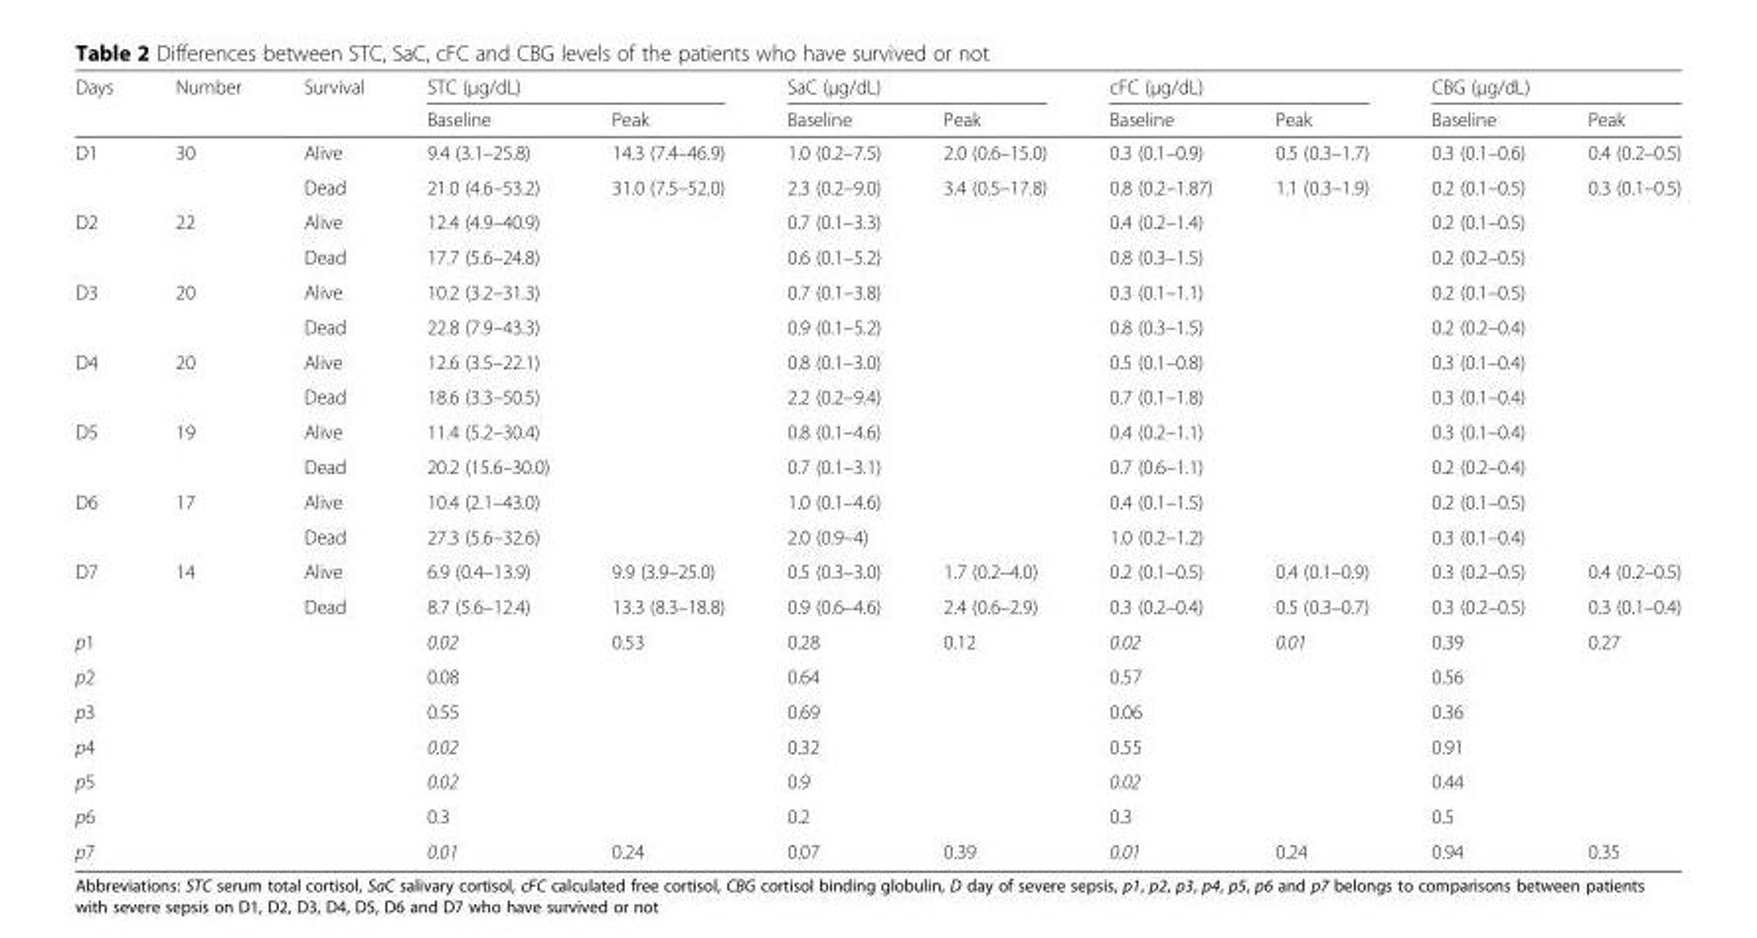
<table><thead><tr><td rowspan="2">Days</td><td rowspan="2">Number</td><td rowspan="2">Survival</td><td colspan="2">STC (μg/dL)</td><td colspan="2">SaC (μg/dL)</td><td colspan="2">cFC (μg/dL)</td><td colspan="2">CBG (μg/dL)</td></tr><tr><td>Baseline</td><td>Peak</td><td>Baseline</td><td>Peak</td><td>Baseline</td><td>Peak</td><td>Baseline</td><td>Peak</td></tr></thead><tbody><tr><td rowspan="2">D1</td><td rowspan="2">30</td><td>Alive</td><td>9.4 (3.1–25.8)</td><td>14.3 (7.4–46.9)</td><td>1.0 (0.2–7.5)</td><td>2.0 (0.6–15.0)</td><td>0.3 (0.1–0.9)</td><td>0.5 (0.3–1.7)</td><td>0.3 (0.1–0.6)</td><td>0.4 (0.2–0.5)</td></tr><tr><td>Dead</td><td>21.0 (4.6–53.2)</td><td>31.0 (7.5–52.0)</td><td>2.3 (0.2–9.0)</td><td>3.4 (0.5–17.8)</td><td>0.8 (0.2–1.87)</td><td>1.1 (0.3–1.9)</td><td>0.2 (0.1–0.5)</td><td>0.3 (0.1–0.5)</td></tr><tr><td rowspan="2">D2</td><td rowspan="2">22</td><td>Alive</td><td>12.4 (4.9–40.9)</td><td></td><td>0.7 (0.1–3.3)</td><td></td><td>0.4 (0.2–1.4)</td><td></td><td>0.2 (0.1–0.5)</td><td></td></tr><tr><td>Dead</td><td>17.7 (5.6–24.8)</td><td></td><td>0.6 (0.1–5.2)</td><td></td><td>0.8 (0.3–1.5)</td><td></td><td>0.2 (0.2–0.5)</td><td></td></tr><tr><td rowspan="2">D3</td><td rowspan="2">20</td><td>Alive</td><td>10.2 (3.2–31.3)</td><td></td><td>0.7 (0.1–3.8)</td><td></td><td>0.3 (0.1–1.1)</td><td></td><td>0.2 (0.1–0.5)</td><td></td></tr><tr><td>Dead</td><td>22.8 (7.9–43.3)</td><td></td><td>0.9 (0.1–5.2)</td><td></td><td>0.8 (0.3–1.5)</td><td></td><td>0.2 (0.2–0.4)</td><td></td></tr><tr><td rowspan="2">D4</td><td rowspan="2">20</td><td>Alive</td><td>12.6 (3.5–22.1)</td><td></td><td>0.8 (0.1–3.0)</td><td></td><td>0.5 (0.1–0.8)</td><td></td><td>0.3 (0.1–0.4)</td><td></td></tr><tr><td>Dead</td><td>18.6 (3.3–50.5)</td><td></td><td>2.2 (0.2–9.4)</td><td></td><td>0.7 (0.1–1.8)</td><td></td><td>0.3 (0.1–0.4)</td><td></td></tr><tr><td rowspan="2">D5</td><td rowspan="2">19</td><td>Alive</td><td>11.4 (5.2–30.4)</td><td></td><td>0.8 (0.1–4.6)</td><td></td><td>0.4 (0.2–1.1)</td><td></td><td>0.3 (0.1–0.4)</td><td></td></tr><tr><td>Dead</td><td>20.2 (15.6–30.0)</td><td></td><td>0.7 (0.1–3.1)</td><td></td><td>0.7 (0.6–1.1)</td><td></td><td>0.2 (0.2–0.4)</td><td></td></tr><tr><td rowspan="2">D6</td><td rowspan="2">17</td><td>Alive</td><td>10.4 (2.1–43.0)</td><td></td><td>1.0 (0.1–4.6)</td><td></td><td>0.4 (0.1–1.5)</td><td></td><td>0.2 (0.1–0.5)</td><td></td></tr><tr><td>Dead</td><td>27.3 (5.6–32.6)</td><td></td><td>2.0 (0.9–4)</td><td></td><td>1.0 (0.2–1.2)</td><td></td><td>0.3 (0.1–0.4)</td><td></td></tr><tr><td rowspan="2">D7</td><td rowspan="2">14</td><td>Alive</td><td>6.9 (0.4–13.9)</td><td>9.9 (3.9–25.0)</td><td>0.5 (0.3–3.0)</td><td>1.7 (0.2–4.0)</td><td>0.2 (0.1–0.5)</td><td>0.4 (0.1–0.9)</td><td>0.3 (0.2–0.5)</td><td>0.4 (0.2–0.5)</td></tr><tr><td>Dead</td><td>8.7 (5.6–12.4)</td><td>13.3 (8.3–18.8)</td><td>0.9 (0.6–4.6)</td><td>2.4 (0.6–2.9)</td><td>0.3 (0.2–0.4)</td><td>0.5 (0.3–0.7)</td><td>0.3 (0.2–0.5)</td><td>0.3 (0.1–0.4)</td></tr><tr><td>p1</td><td></td><td></td><td>0.02</td><td>0.53</td><td>0.28</td><td>0.12</td><td>0.02</td><td>0.01</td><td>0.39</td><td>0.27</td></tr><tr><td>p2</td><td></td><td></td><td>0.08</td><td></td><td>0.64</td><td></td><td>0.57</td><td></td><td>0.56</td><td></td></tr><tr><td>p3</td><td></td><td></td><td>0.55</td><td></td><td>0.69</td><td></td><td>0.06</td><td></td><td>0.36</td><td></td></tr><tr><td>p4</td><td></td><td></td><td>0.02</td><td></td><td>0.32</td><td></td><td>0.55</td><td></td><td>0.91</td><td></td></tr><tr><td>p5</td><td></td><td></td><td>0.02</td><td></td><td>0.9</td><td></td><td>0.02</td><td></td><td>0.44</td><td></td></tr><tr><td>p6</td><td></td><td></td><td>0.3</td><td></td><td>0.2</td><td></td><td>0.3</td><td></td><td>0.5</td><td></td></tr><tr><td>p7</td><td></td><td></td><td>0.01</td><td>0.24</td><td>0.07</td><td>0.39</td><td>0.01</td><td>0.24</td><td>0.94</td><td>0.35</td></tr></tbody></table>